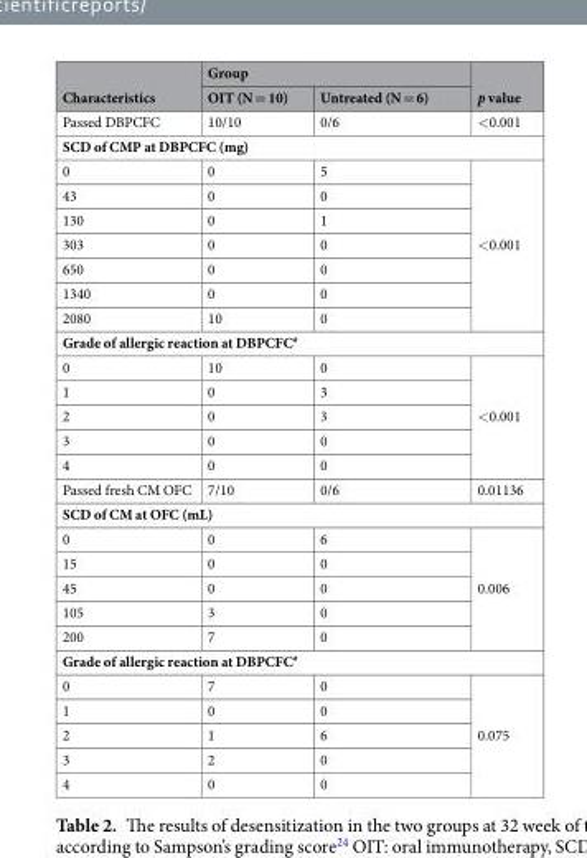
<table><thead><tr><td rowspan="2">Characteristics</td><td colspan="2">Group</td><td rowspan="2">p value</td></tr><tr><td>OIT (N = 10)</td><td>Untreated (N = 6)</td></tr></thead><tbody><tr><td>Passed DBPCFC</td><td>10/10</td><td>0/6</td><td>&lt;0.001</td></tr><tr><td colspan="4">SCD of CMP at DBPCFC (mg)</td></tr><tr><td>0</td><td>0</td><td>5</td><td rowspan="7">&lt;0.001</td></tr><tr><td>43</td><td>0</td><td>0</td></tr><tr><td>130</td><td>0</td><td>1</td></tr><tr><td>303</td><td>0</td><td>0</td></tr><tr><td>650</td><td>0</td><td>0</td></tr><tr><td>1340</td><td>0</td><td>0</td></tr><tr><td>2080</td><td>10</td><td>0</td></tr><tr><td colspan="4">Grade of allergic reaction at DBPCFC<sup>#</sup></td></tr><tr><td>0</td><td>10</td><td>0</td><td rowspan="5">&lt;0.001</td></tr><tr><td>1</td><td>0</td><td>3</td></tr><tr><td>2</td><td>0</td><td>3</td></tr><tr><td>3</td><td>0</td><td>0</td></tr><tr><td>4</td><td>0</td><td>0</td></tr><tr><td>Passed fresh CM OFC</td><td>7/10</td><td>0/6</td><td>0.01136</td></tr><tr><td colspan="4">SCD of CM at OFC (mL)</td></tr><tr><td>0</td><td>0</td><td>6</td><td rowspan="5">0.006</td></tr><tr><td>15</td><td>0</td><td>0</td></tr><tr><td>45</td><td>0</td><td>0</td></tr><tr><td>105</td><td>3</td><td>0</td></tr><tr><td>200</td><td>7</td><td>0</td></tr><tr><td colspan="4">Grade of allergic reaction at DBPCFC<sup>#</sup></td></tr><tr><td>0</td><td>7</td><td>0</td><td rowspan="5">0.075</td></tr><tr><td>1</td><td>0</td><td>0</td></tr><tr><td>2</td><td>1</td><td>6</td></tr><tr><td>3</td><td>2</td><td>0</td></tr><tr><td>4</td><td>0</td><td>0</td></tr></tbody></table>